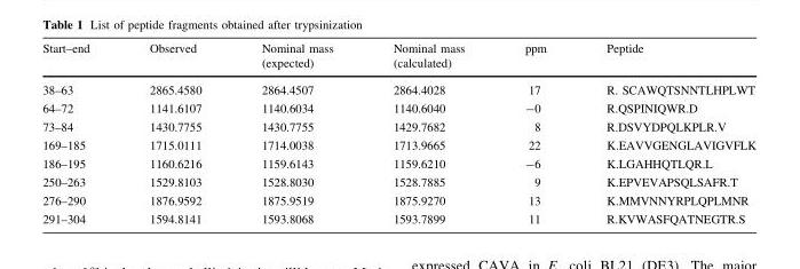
<table><thead><tr><td>Start–end</td><td>Observed</td><td>Nominal mass (expected)</td><td>Nominal mass (calculated)</td><td>ppm</td><td>Peptide</td></tr></thead><tbody><tr><td>38–63</td><td>2865.4580</td><td>2864.4507</td><td>2864.4028</td><td>17</td><td>R. SCAWQTSNNTLHPLWT</td></tr><tr><td>64–72</td><td>1141.6107</td><td>1140.6034</td><td>1140.6040</td><td>-0</td><td>R.QSPINIQWR.D</td></tr><tr><td>73–84</td><td>1430.7755</td><td>1430.7755</td><td>1429.7682</td><td>8</td><td>R.DSVYDPQLKPLR.V</td></tr><tr><td>169–185</td><td>1715.0111</td><td>1714.0038</td><td>1713.9665</td><td>22</td><td>K.EAVVGENGLAVIGVFLK</td></tr><tr><td>186–195</td><td>1160.6216</td><td>1159.6143</td><td>1159.6210</td><td>-6</td><td>K.LGAHHQTLQR.L</td></tr><tr><td>250–263</td><td>1529.8103</td><td>1528.8030</td><td>1528.7885</td><td>9</td><td>K.EPVEVAPSQLSAFR.T</td></tr><tr><td>276–290</td><td>1876.9592</td><td>1875.9519</td><td>1875.9270</td><td>13</td><td>K.MMVNNYRPLQPLMNR</td></tr><tr><td>291–304</td><td>1594.8141</td><td>1593.8068</td><td>1593.7899</td><td>11</td><td>R.KVWASFQATNEGTR.S</td></tr></tbody></table>